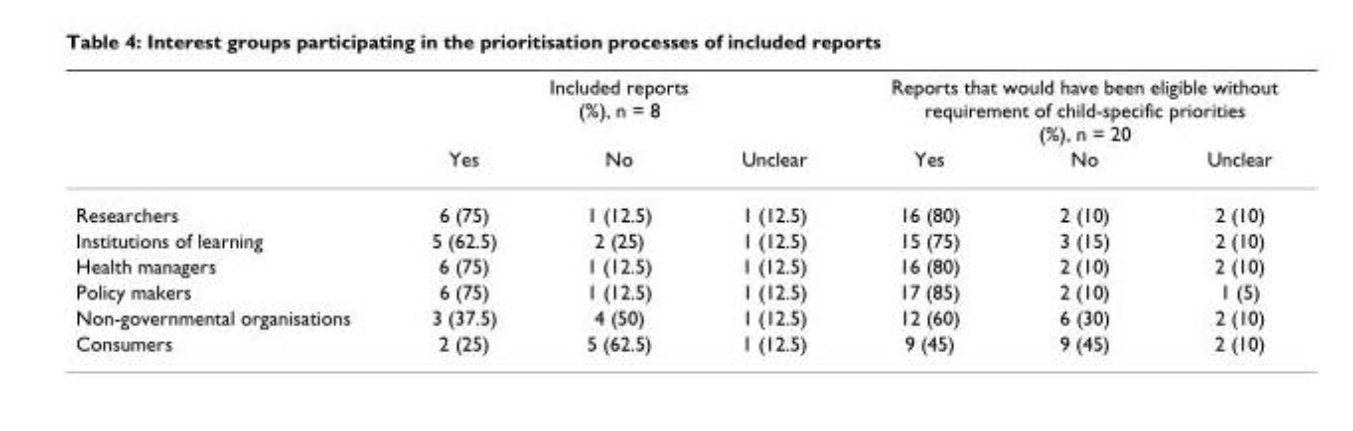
<table><thead><tr><td rowspan="2"></td><td colspan="3">Included reports (%), n = 8</td><td colspan="3">Reports that would have been eligible without requirement of child-specific priorities (%), n = 20</td></tr><tr><td>Yes</td><td>No</td><td>Unclear</td><td>Yes</td><td>No</td><td>Unclear</td></tr></thead><tbody><tr><td>Researchers</td><td>6 (75)</td><td>1 (12.5)</td><td>1 (12.5)</td><td>16 (80)</td><td>2 (10)</td><td>2 (10)</td></tr><tr><td>Institutions of learning</td><td>5 (62.5)</td><td>2 (25)</td><td>1 (12.5)</td><td>15 (75)</td><td>3 (15)</td><td>2 (10)</td></tr><tr><td>Health managers</td><td>6 (75)</td><td>1 (12.5)</td><td>1 (12.5)</td><td>16 (80)</td><td>2 (10)</td><td>2 (10)</td></tr><tr><td>Policy makers</td><td>6 (75)</td><td>1 (12.5)</td><td>1 (12.5)</td><td>17 (85)</td><td>2 (10)</td><td>1 (5)</td></tr><tr><td>Non-governmental organisations</td><td>3 (37.5)</td><td>4 (50)</td><td>1 (12.5)</td><td>12 (60)</td><td>6 (30)</td><td>2 (10)</td></tr><tr><td>Consumers</td><td>2 (25)</td><td>5 (62.5)</td><td>1 (12.5)</td><td>9 (45)</td><td>9 (45)</td><td>2 (10)</td></tr></tbody></table>